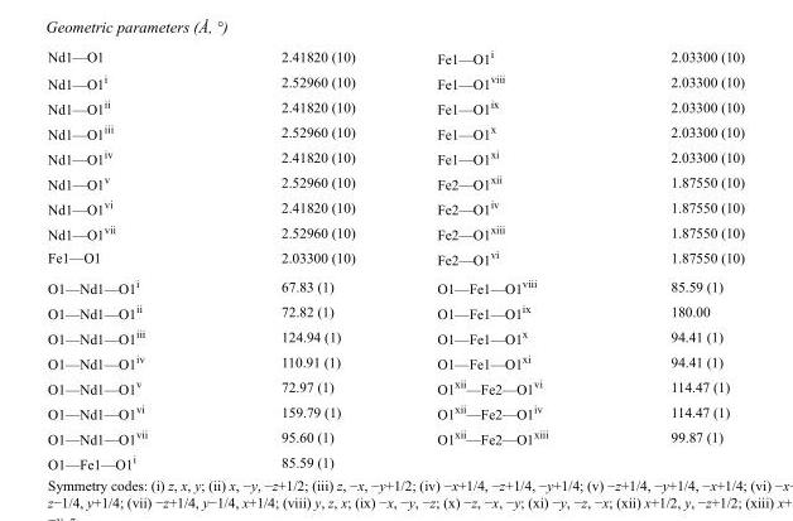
<table><tbody><tr><td>Nd1—O1</td><td>2.41820 (10)</td><td>Fe1—O1<sup>i</sup></td><td>2.03300 (10)</td></tr><tr><td>Nd1—O1<sup>i</sup></td><td>2.52960 (10)</td><td>Fe1—O1<sup>viii</sup></td><td>2.03300 (10)</td></tr><tr><td>Nd1—O1<sup>ii</sup></td><td>2.41820 (10)</td><td>Fe1—O1<sup>ix</sup></td><td>2.03300 (10)</td></tr><tr><td>Nd1—O1<sup>iii</sup></td><td>2.52960 (10)</td><td>Fe1—O1<sup>x</sup></td><td>2.03300 (10)</td></tr><tr><td>Nd1—O1<sup>iv</sup></td><td>2.41820 (10)</td><td>Fe1—O1<sup>xi</sup></td><td>2.03300 (10)</td></tr><tr><td>Nd1—O1<sup>v</sup></td><td>2.52960 (10)</td><td>Fe2—O1<sup>xii</sup></td><td>1.87550 (10)</td></tr><tr><td>Nd1—O1<sup>vi</sup></td><td>2.41820 (10)</td><td>Fe2—O1<sup>iv</sup></td><td>1.87550 (10)</td></tr><tr><td>Nd1—O1<sup>vii</sup></td><td>2.52960 (10)</td><td>Fe2—O1<sup>xiii</sup></td><td>1.87550 (10)</td></tr><tr><td>Fe1—O1</td><td>2.03300 (10)</td><td>Fe2—O1<sup>vi</sup></td><td>1.87550 (10)</td></tr><tr><td>O1—Nd1—O1<sup>i</sup></td><td>67.83 (1)</td><td>O1—Fe1—O1<sup>viii</sup></td><td>85.59 (1)</td></tr><tr><td>O1—Nd1—O1<sup>ii</sup></td><td>72.82 (1)</td><td>O1—Fe1—O1<sup>ix</sup></td><td>180.00</td></tr><tr><td>O1—Nd1—O1<sup>iii</sup></td><td>124.94 (1)</td><td>O1—Fe1—O1<sup>x</sup></td><td>94.41 (1)</td></tr><tr><td>O1—Nd1—O1<sup>iv</sup></td><td>110.91 (1)</td><td>O1—Fe1—O1<sup>xi</sup></td><td>94.41 (1)</td></tr><tr><td>O1—Nd1—O1<sup>v</sup></td><td>72.97 (1)</td><td>O1<sup>xii</sup>—Fe2—O1<sup>vi</sup></td><td>114.47 (1)</td></tr><tr><td>O1—Nd1—O1<sup>vi</sup></td><td>159.79 (1)</td><td>O1<sup>xii</sup>—Fe2—O1<sup>iv</sup></td><td>114.47 (1)</td></tr><tr><td>O1—Nd1—O1<sup>vii</sup></td><td>95.60 (1)</td><td>O1<sup>xii</sup>—Fe2—O1<sup>xiii</sup></td><td>99.87 (1)</td></tr><tr><td>O1—Fe1—O1<sup>i</sup></td><td>85.59 (1)</td><td></td><td></td></tr></tbody></table>